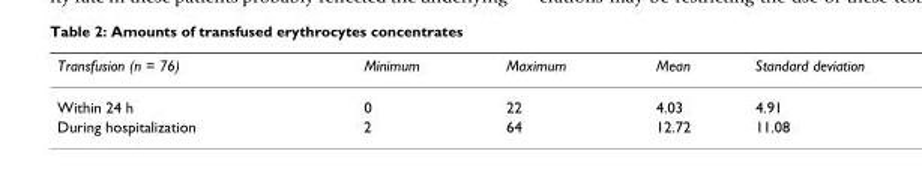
<table><thead><tr><td>Transfusion (n = 76)</td><td>Minimum</td><td>Maximum</td><td>Mean</td><td>Standard deviation</td></tr></thead><tbody><tr><td>Within 24 h</td><td>0</td><td>22</td><td>4.03</td><td>4.91</td></tr><tr><td>During hospitalization</td><td>2</td><td>64</td><td>12.72</td><td>11.08</td></tr></tbody></table>